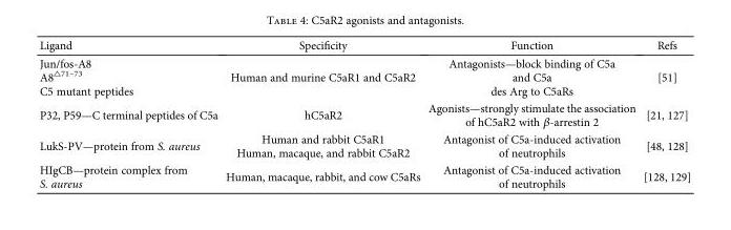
<table><thead><tr><td>Ligand</td><td>Specificity</td><td>Function</td><td>Refs</td></tr></thead><tbody><tr><td>Jun/fos-A8 A8<sup>△71–73</sup> C5 mutant peptides</td><td>Human and murine C5aR1 and C5aR2</td><td>Antagonists—block binding of C5a and C5a des Arg to C5aRs</td><td>[51]</td></tr><tr><td>P32, P59—C terminal peptides of C5a</td><td>hC5aR2</td><td>Agonists—strongly stimulate the association of hC5aR2 with β-arrestin 2</td><td>[21, 127]</td></tr><tr><td>LukS-PV—protein from S. aureus</td><td>Human and rabbit C5aR1 Human, macaque, and rabbit C5aR2</td><td>Antagonist of C5a-induced activation of neutrophils</td><td>[48, 128]</td></tr><tr><td>HIgCB—protein complex from S. aureus</td><td>Human, macaque, rabbit, and cow C5aRs</td><td>Antagonist of C5a-induced activation of neutrophils</td><td>[128, 129]</td></tr></tbody></table>